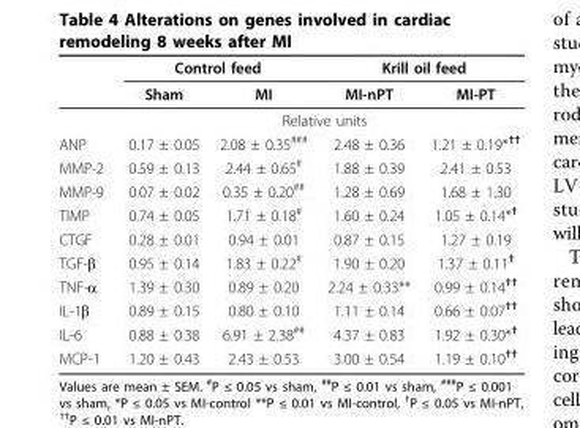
<table><thead><tr><td rowspan="2"></td><td colspan="2">Control feed</td><td colspan="2">Krill oil feed</td></tr><tr><td>Sham</td><td>MI</td><td>MI-nPT</td><td>MI-PT</td></tr></thead><tbody><tr><td></td><td colspan="4">Relative units</td></tr><tr><td>ANP</td><td>0.17 ± 0.05</td><td>2.08 ± 0.35<sup>###</sup></td><td>2.48 ± 0.36</td><td>1.21 ± 0.19*<sup>††</sup></td></tr><tr><td>MMP-2</td><td>0.59 ± 0.13</td><td>2.44 ± 0.65<sup>#</sup></td><td>1.88 ± 0.39</td><td>2.41 ± 0.53</td></tr><tr><td>MMP-9</td><td>0.07 ± 0.02</td><td>0.35 ± 0.20<sup>##</sup></td><td>1.28 ± 0.69</td><td>1.68 ± 1.30</td></tr><tr><td>TIMP</td><td>0.74 ± 0.05</td><td>1.71 ± 0.18<sup>#</sup></td><td>1.60 ± 0.24</td><td>1.05 ± 0.14*<sup>†</sup></td></tr><tr><td>CTGF</td><td>0.28 ± 0.01</td><td>0.94 ± 0.01</td><td>0.87 ± 0.15</td><td>1.27 ± 0.19</td></tr><tr><td>TGF-β</td><td>0.95 ± 0.14</td><td>1.83 ± 0.22<sup>#</sup></td><td>1.90 ± 0.20</td><td>1.37 ± 0.11<sup>†</sup></td></tr><tr><td>TNF-α</td><td>1.39 ± 0.30</td><td>0.89 ± 0.20</td><td>2.24 ± 0.33**</td><td>0.99 ± 0.14<sup>††</sup></td></tr><tr><td>IL-1β</td><td>0.89 ± 0.15</td><td>0.80 ± 0.10</td><td>1.11 ± 0.14</td><td>0.66 ± 0.07<sup>††</sup></td></tr><tr><td>IL-6</td><td>0.88 ± 0.38</td><td>6.91 ± 2.38<sup>##</sup></td><td>4.37 ± 0.83</td><td>1.92 ± 0.30*<sup>†</sup></td></tr><tr><td>MCP-1</td><td>1.20 ± 0.43</td><td>2.43 ± 0.53</td><td>3.00 ± 0.54</td><td>1.19 ± 0.10<sup>††</sup></td></tr></tbody></table>